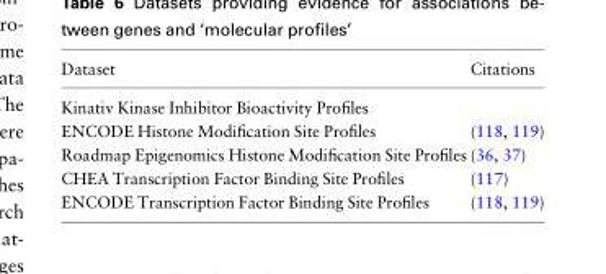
<table><thead><tr><td>Dataset</td><td>Citations</td></tr></thead><tbody><tr><td colspan="2">Kinativ Kinase Inhibitor Bioactivity Profiles</td></tr><tr><td>ENCODE Histone Modification Site Profiles</td><td>(118, 119)</td></tr><tr><td>Roadmap Epigenomics Histone Modification Site Profiles</td><td>(36, 37)</td></tr><tr><td>CHEA Transcription Factor Binding Site Profiles</td><td>(117)</td></tr><tr><td>ENCODE Transcription Factor Binding Site Profiles</td><td>(118, 119)</td></tr></tbody></table>